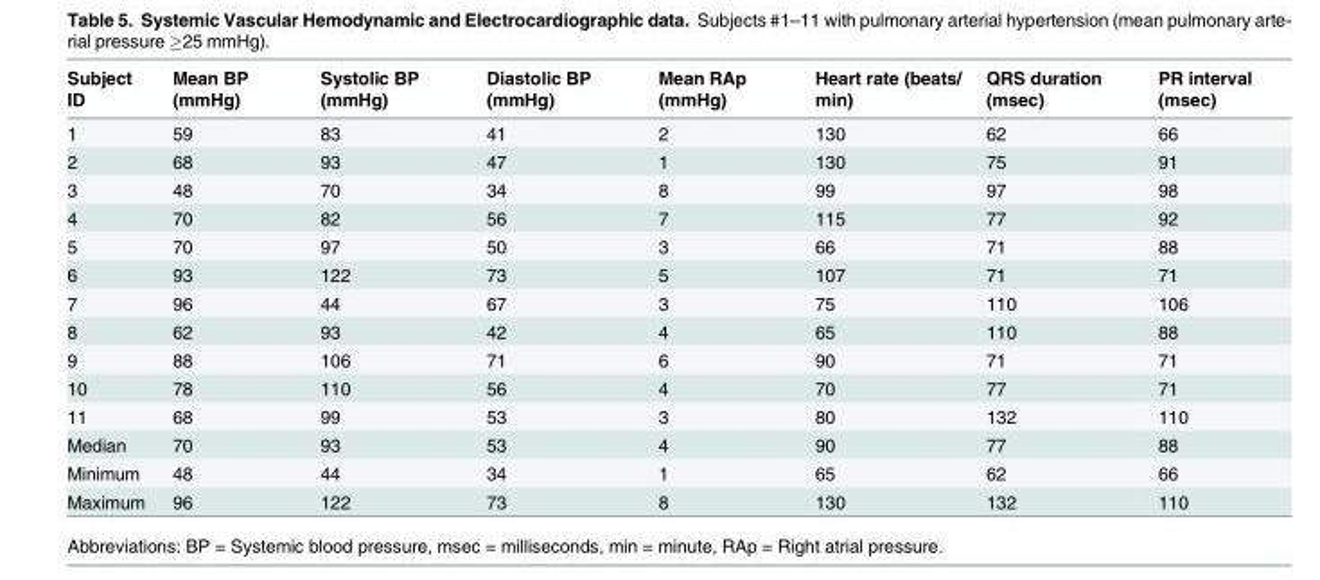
<table><thead><tr><td>Subject ID</td><td>Mean BP (mmHg)</td><td>Systolic BP (mmHg)</td><td>Diastolic BP (mmHg)</td><td>Mean RAp (mmHg)</td><td>Heart rate (beats/ min)</td><td>QRS duration (msec)</td><td>PR interval (msec)</td></tr></thead><tbody><tr><td>1</td><td>59</td><td>83</td><td>41</td><td>2</td><td>130</td><td>62</td><td>66</td></tr><tr><td>2</td><td>68</td><td>93</td><td>47</td><td>1</td><td>130</td><td>75</td><td>91</td></tr><tr><td>3</td><td>48</td><td>70</td><td>34</td><td>8</td><td>99</td><td>97</td><td>98</td></tr><tr><td>4</td><td>70</td><td>82</td><td>56</td><td>7</td><td>115</td><td>77</td><td>92</td></tr><tr><td>5</td><td>70</td><td>97</td><td>50</td><td>3</td><td>66</td><td>71</td><td>88</td></tr><tr><td>6</td><td>93</td><td>122</td><td>73</td><td>5</td><td>107</td><td>71</td><td>71</td></tr><tr><td>7</td><td>96</td><td>44</td><td>67</td><td>3</td><td>75</td><td>110</td><td>106</td></tr><tr><td>8</td><td>62</td><td>93</td><td>42</td><td>4</td><td>65</td><td>110</td><td>88</td></tr><tr><td>9</td><td>88</td><td>106</td><td>71</td><td>6</td><td>90</td><td>71</td><td>71</td></tr><tr><td>10</td><td>78</td><td>110</td><td>56</td><td>4</td><td>70</td><td>77</td><td>71</td></tr><tr><td>11</td><td>68</td><td>99</td><td>53</td><td>3</td><td>80</td><td>132</td><td>110</td></tr><tr><td>Median</td><td>70</td><td>93</td><td>53</td><td>4</td><td>90</td><td>77</td><td>88</td></tr><tr><td>Minimum</td><td>48</td><td>44</td><td>34</td><td>1</td><td>65</td><td>62</td><td>66</td></tr><tr><td>Maximum</td><td>96</td><td>122</td><td>73</td><td>8</td><td>130</td><td>132</td><td>110</td></tr></tbody></table>